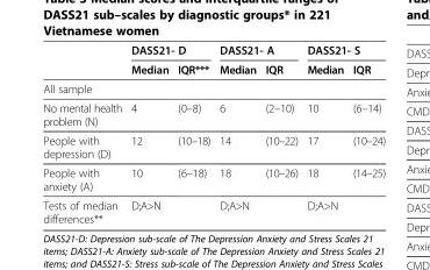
<table><thead><tr><td rowspan="2"></td><td colspan="2">DASS21- D</td><td colspan="2">DASS21- A</td><td colspan="2">DASS21- S</td></tr><tr><td>Median</td><td>IQR***</td><td>Median</td><td>IQR</td><td>Median</td><td>IQR</td></tr></thead><tbody><tr><td colspan="7">All sample</td></tr><tr><td>No mental health problem (N)</td><td>4</td><td>(0–8)</td><td>6</td><td>(2–10)</td><td>10</td><td>(6–14)</td></tr><tr><td>People with depression (D)</td><td>12</td><td>(10–18)</td><td>14</td><td>(10–22)</td><td>17</td><td>(10–24)</td></tr><tr><td>People with anxiety (A)</td><td>10</td><td>(6–18)</td><td>18</td><td>(10–26)</td><td>18</td><td>(14–25)</td></tr><tr><td>Tests of median differences**</td><td colspan="2">D;A&gt;N</td><td colspan="2">D;A&gt;N</td><td colspan="2">D;A&gt;N</td></tr></tbody></table>